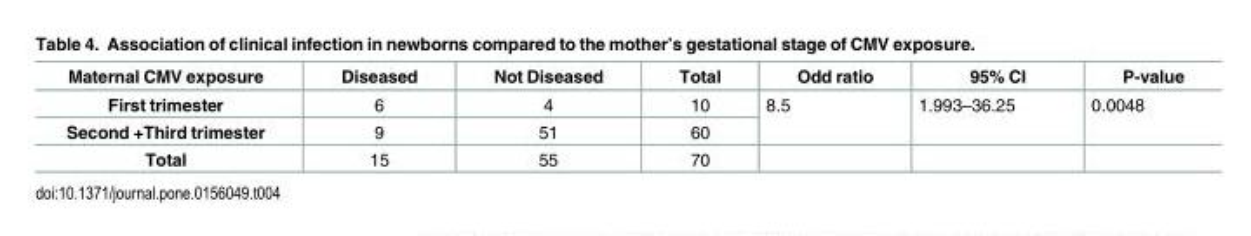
<table><thead><tr><td>Maternal CMV exposure</td><td>Diseased</td><td>Not Diseased</td><td>Total</td><td>Odd ratio</td><td>95% CI</td><td>P-value</td></tr></thead><tbody><tr><td>First trimester</td><td>6</td><td>4</td><td>10</td><td rowspan="2">8.5</td><td rowspan="2">1.993–36.25</td><td rowspan="2">0.0048</td></tr><tr><td>Second +Third trimester</td><td>9</td><td>51</td><td>60</td></tr><tr><td>Total</td><td>15</td><td>55</td><td>70</td><td></td><td></td><td></td></tr></tbody></table>